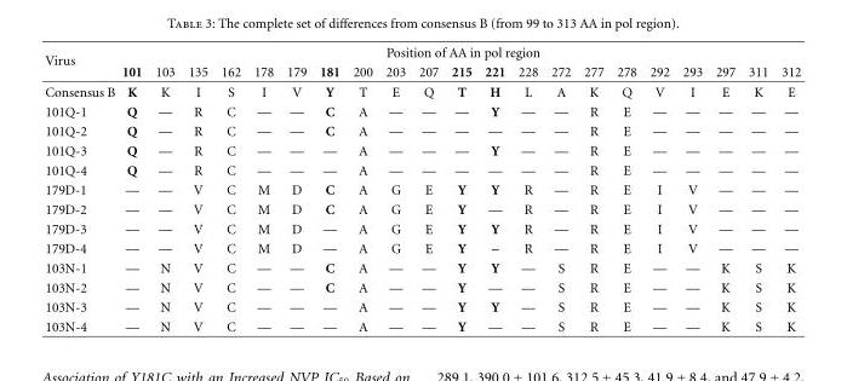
<table><thead><tr><td rowspan="2">Virus</td><td colspan="21">Position of AA in pol region</td></tr><tr><td>101</td><td>103</td><td>135</td><td>162</td><td>178</td><td>179</td><td>181</td><td>200</td><td>203</td><td>207</td><td>215</td><td>221</td><td>228</td><td>272</td><td>277</td><td>278</td><td>292</td><td>293</td><td>297</td><td>311</td><td>312</td></tr></thead><tbody><tr><td>Consensus B</td><td>K</td><td>K</td><td>I</td><td>S</td><td>I</td><td>V</td><td>Y</td><td>T</td><td>E</td><td>Q</td><td>T</td><td>H</td><td>L</td><td>A</td><td>K</td><td>Q</td><td>V</td><td>I</td><td>E</td><td>K</td><td>E</td></tr><tr><td>101Q-1</td><td>Q</td><td>—</td><td>R</td><td>C</td><td>—</td><td>—</td><td>C</td><td>A</td><td>—</td><td>—</td><td>—</td><td>Y</td><td>—</td><td>—</td><td>R</td><td>E</td><td>—</td><td>—</td><td>—</td><td>—</td><td>—</td></tr><tr><td>101Q-2</td><td>Q</td><td>—</td><td>R</td><td>C</td><td>—</td><td>—</td><td>C</td><td>A</td><td>—</td><td>—</td><td>—</td><td>—</td><td>—</td><td>—</td><td>R</td><td>E</td><td>—</td><td>—</td><td>—</td><td>—</td><td>—</td></tr><tr><td>101Q-3</td><td>Q</td><td>—</td><td>R</td><td>C</td><td>—</td><td>—</td><td>—</td><td>A</td><td>—</td><td>—</td><td>—</td><td>Y</td><td>—</td><td>—</td><td>R</td><td>E</td><td>—</td><td>—</td><td>—</td><td>—</td><td>—</td></tr><tr><td>101Q-4</td><td>Q</td><td>—</td><td>R</td><td>C</td><td>—</td><td>—</td><td>—</td><td>A</td><td>—</td><td>—</td><td>—</td><td>—</td><td>—</td><td>—</td><td>R</td><td>E</td><td>—</td><td>—</td><td>—</td><td>—</td><td>—</td></tr><tr><td>179D-1</td><td>—</td><td>—</td><td>V</td><td>C</td><td>M</td><td>D</td><td>C</td><td>A</td><td>G</td><td>E</td><td>Y</td><td>Y</td><td>R</td><td>—</td><td>R</td><td>E</td><td>I</td><td>V</td><td>—</td><td>—</td><td>—</td></tr><tr><td>179D-2</td><td>—</td><td>—</td><td>V</td><td>C</td><td>M</td><td>D</td><td>C</td><td>A</td><td>G</td><td>E</td><td>Y</td><td>—</td><td>R</td><td>—</td><td>R</td><td>E</td><td>I</td><td>V</td><td>—</td><td>—</td><td>—</td></tr><tr><td>179D-3</td><td>—</td><td>—</td><td>V</td><td>C</td><td>M</td><td>D</td><td>—</td><td>A</td><td>G</td><td>E</td><td>Y</td><td>Y</td><td>R</td><td>—</td><td>R</td><td>E</td><td>I</td><td>V</td><td>—</td><td>—</td><td>—</td></tr><tr><td>179D-4</td><td>—</td><td>—</td><td>V</td><td>C</td><td>M</td><td>D</td><td>—</td><td>A</td><td>G</td><td>E</td><td>Y</td><td>–</td><td>R</td><td>—</td><td>R</td><td>E</td><td>I</td><td>V</td><td>—</td><td>—</td><td>—</td></tr><tr><td>103N-1</td><td>—</td><td>N</td><td>V</td><td>C</td><td>—</td><td>—</td><td>C</td><td>A</td><td>—</td><td>—</td><td>Y</td><td>Y</td><td>—</td><td>S</td><td>R</td><td>E</td><td>—</td><td>—</td><td>K</td><td>S</td><td>K</td></tr><tr><td>103N-2</td><td>—</td><td>N</td><td>V</td><td>C</td><td>—</td><td>—</td><td>C</td><td>A</td><td>—</td><td>—</td><td>Y</td><td>—</td><td>—</td><td>S</td><td>R</td><td>E</td><td>—</td><td>—</td><td>K</td><td>S</td><td>K</td></tr><tr><td>103N-3</td><td>—</td><td>N</td><td>V</td><td>C</td><td>—</td><td>—</td><td>—</td><td>A</td><td>—</td><td>—</td><td>Y</td><td>Y</td><td>—</td><td>S</td><td>R</td><td>E</td><td>—</td><td>—</td><td>K</td><td>S</td><td>K</td></tr><tr><td>103N-4</td><td>—</td><td>N</td><td>V</td><td>C</td><td>—</td><td>—</td><td>—</td><td>A</td><td>—</td><td>—</td><td>Y</td><td>—</td><td>—</td><td>S</td><td>R</td><td>E</td><td>—</td><td>—</td><td>K</td><td>S</td><td>K</td></tr></tbody></table>